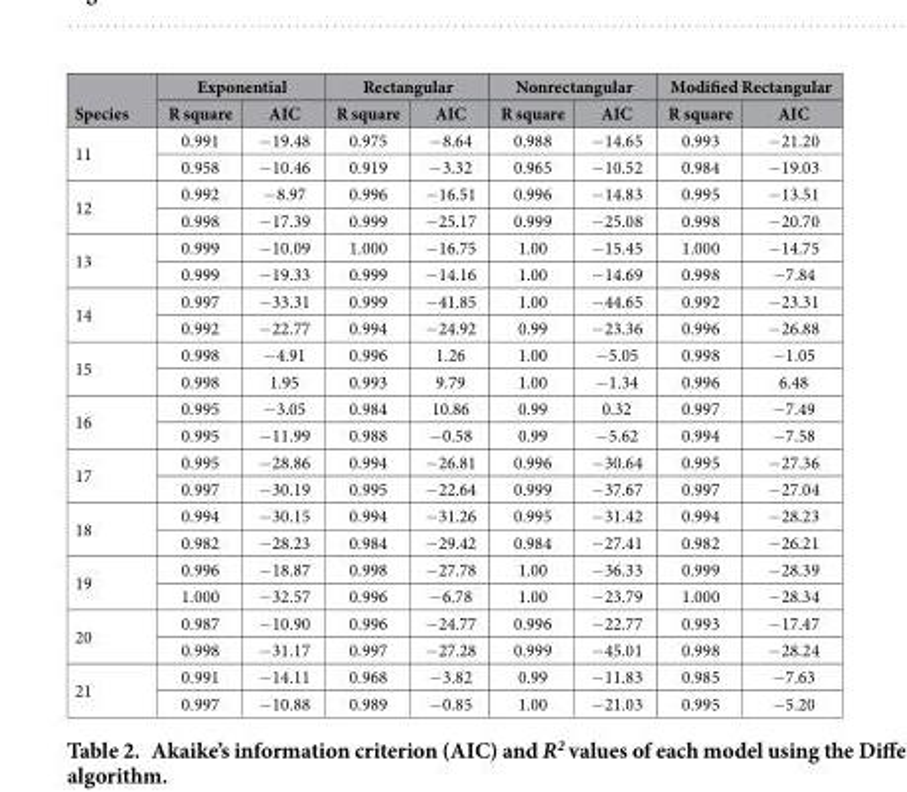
<table><thead><tr><td rowspan="2">Species</td><td colspan="2">Exponential</td><td colspan="2">Rectangular</td><td colspan="2">Nonrectangular</td><td colspan="2">Modified Rectangular</td></tr><tr><td>R square</td><td>AIC</td><td>R square</td><td>AIC</td><td>R square</td><td>AIC</td><td>R square</td><td>AIC</td></tr></thead><tbody><tr><td rowspan="2">11</td><td>0.991</td><td>− 19.48</td><td>0.975</td><td>− 8.64</td><td>0.988</td><td>− 14.65</td><td>0.993</td><td>− 21.20</td></tr><tr><td>0.958</td><td>− 10.46</td><td>0.919</td><td>− 3.32</td><td>0.965</td><td>− 10.52</td><td>0.984</td><td>− 19.03</td></tr><tr><td rowspan="2">12</td><td>0.992</td><td>− 8.97</td><td>0.996</td><td>− 16.51</td><td>0.996</td><td>− 14.83</td><td>0.995</td><td>− 13.51</td></tr><tr><td>0.998</td><td>− 17.39</td><td>0.999</td><td>− 25.17</td><td>0.999</td><td>− 25.08</td><td>0.998</td><td>− 20.70</td></tr><tr><td rowspan="2">13</td><td>0.999</td><td>− 10.09</td><td>1.000</td><td>− 16.75</td><td>1.00</td><td>− 15.45</td><td>1.000</td><td>− 14.75</td></tr><tr><td>0.999</td><td>− 19.33</td><td>0.999</td><td>− 14.16</td><td>1.00</td><td>− 14.69</td><td>0.998</td><td>− 7.84</td></tr><tr><td rowspan="2">14</td><td>0.997</td><td>− 33.31</td><td>0.999</td><td>− 41.85</td><td>1.00</td><td>− 44.65</td><td>0.992</td><td>− 23.31</td></tr><tr><td>0.992</td><td>− 22.77</td><td>0.994</td><td>− 24.92</td><td>0.99</td><td>− 23.36</td><td>0.996</td><td>− 26.88</td></tr><tr><td rowspan="2">15</td><td>0.998</td><td>− 4.91</td><td>0.996</td><td>1.26</td><td>1.00</td><td>− 5.05</td><td>0.998</td><td>− 1.05</td></tr><tr><td>0.998</td><td>1.95</td><td>0.993</td><td>9.79</td><td>1.00</td><td>− 1.34</td><td>0.996</td><td>6.48</td></tr><tr><td rowspan="2">16</td><td>0.995</td><td>− 3.05</td><td>0.984</td><td>10.86</td><td>0.99</td><td>0.32</td><td>0.997</td><td>− 7.49</td></tr><tr><td>0.995</td><td>− 11.99</td><td>0.988</td><td>− 0.58</td><td>0.99</td><td>− 5.62</td><td>0.994</td><td>− 7.58</td></tr><tr><td rowspan="2">17</td><td>0.995</td><td>− 28.86</td><td>0.994</td><td>− 26.81</td><td>0.996</td><td>− 30.64</td><td>0.995</td><td>− 27.36</td></tr><tr><td>0.997</td><td>− 30.19</td><td>0.995</td><td>− 22.64</td><td>0.999</td><td>− 37.67</td><td>0.997</td><td>− 27.04</td></tr><tr><td rowspan="2">18</td><td>0.994</td><td>− 30.15</td><td>0.994</td><td>− 31.26</td><td>0.995</td><td>− 31.42</td><td>0.994</td><td>− 28.23</td></tr><tr><td>0.982</td><td>− 28.23</td><td>0.984</td><td>− 29.42</td><td>0.984</td><td>− 27.41</td><td>0.982</td><td>− 26.21</td></tr><tr><td rowspan="2">19</td><td>0.996</td><td>− 18.87</td><td>0.998</td><td>− 27.78</td><td>1.00</td><td>− 36.33</td><td>0.999</td><td>− 28.39</td></tr><tr><td>1.000</td><td>− 32.57</td><td>0.996</td><td>− 6.78</td><td>1.00</td><td>− 23.79</td><td>1.000</td><td>− 28.34</td></tr><tr><td rowspan="2">20</td><td>0.987</td><td>− 10.90</td><td>0.996</td><td>− 24.77</td><td>0.996</td><td>− 22.77</td><td>0.993</td><td>− 17.47</td></tr><tr><td>0.998</td><td>− 31.17</td><td>0.997</td><td>− 27.28</td><td>0.999</td><td>− 45.01</td><td>0.998</td><td>− 28.24</td></tr><tr><td rowspan="2">21</td><td>0.991</td><td>− 14.11</td><td>0.968</td><td>− 3.82</td><td>0.99</td><td>− 11.83</td><td>0.985</td><td>− 7.63</td></tr><tr><td>0.997</td><td>− 10.88</td><td>0.989</td><td>− 0.85</td><td>1.00</td><td>− 21.03</td><td>0.995</td><td>− 5.20</td></tr></tbody></table>